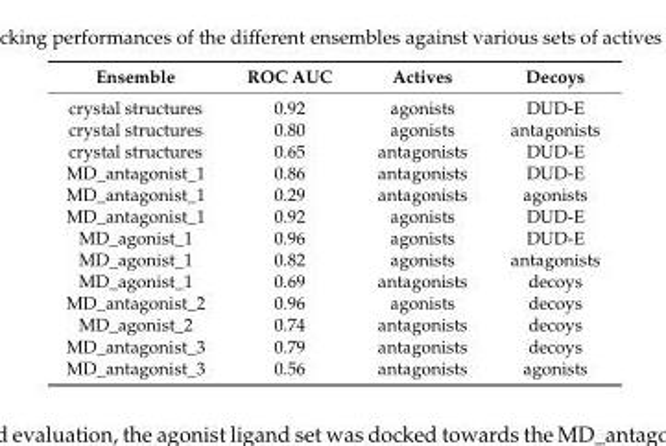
<table><thead><tr><td>Ensemble</td><td>ROC AUC</td><td>Actives</td><td>Decoys</td></tr></thead><tbody><tr><td>crystal structures</td><td>0.92</td><td>agonists</td><td>DUD-E</td></tr><tr><td>crystal structures</td><td>0.80</td><td>agonists</td><td>antagonists</td></tr><tr><td>crystal structures</td><td>0.65</td><td>antagonists</td><td>DUD-E</td></tr><tr><td>MD_antagonist_1</td><td>0.86</td><td>antagonists</td><td>DUD-E</td></tr><tr><td>MD_antagonist_1</td><td>0.29</td><td>antagonists</td><td>agonists</td></tr><tr><td>MD_antagonist_1</td><td>0.92</td><td>agonists</td><td>DUD-E</td></tr><tr><td>MD_agonist_1</td><td>0.96</td><td>agonists</td><td>DUD-E</td></tr><tr><td>MD_agonist_1</td><td>0.82</td><td>agonists</td><td>antagonists</td></tr><tr><td>MD_agonist_1</td><td>0.69</td><td>antagonists</td><td>decoys</td></tr><tr><td>MD_antagonist_2</td><td>0.96</td><td>agonists</td><td>decoys</td></tr><tr><td>MD_agonist_2</td><td>0.74</td><td>antagonists</td><td>decoys</td></tr><tr><td>MD_antagonist_3</td><td>0.79</td><td>antagonists</td><td>decoys</td></tr><tr><td>MD_antagonist_3</td><td>0.56</td><td>antagonists</td><td>agonists</td></tr></tbody></table>